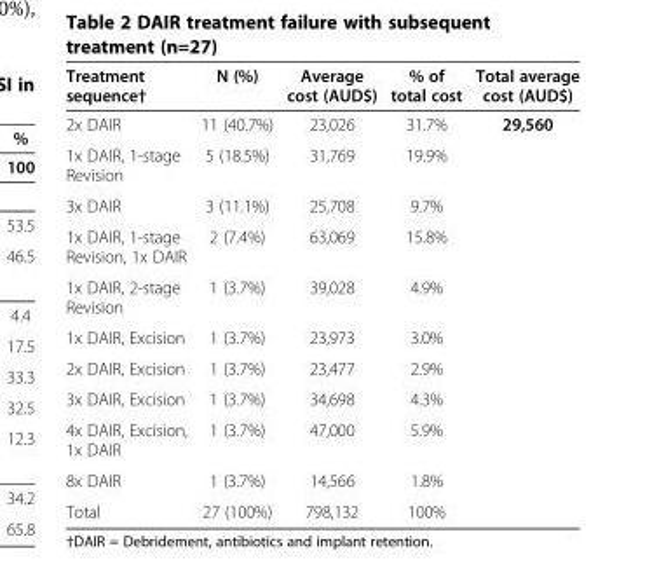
<table><thead><tr><td>Treatment sequence†</td><td>N (%)</td><td>Average cost (AUD$)</td><td>% of total cost</td><td>Total average cost (AUD$)</td></tr></thead><tbody><tr><td>2x DAIR</td><td>11 (40.7%)</td><td>23,026</td><td>31.7%</td><td rowspan="10">29,560</td></tr><tr><td>1x DAIR, 1-stage Revision</td><td>5 (18.5%)</td><td>31,769</td><td>19.9%</td></tr><tr><td>3x DAIR</td><td>3 (11.1%)</td><td>25,708</td><td>9.7%</td></tr><tr><td>1x DAIR, 1-stage Revision, 1x DAIR</td><td>2 (7.4%)</td><td>63,069</td><td>15.8%</td></tr><tr><td>1x DAIR, 2-stage Revision</td><td>1 (3.7%)</td><td>39,028</td><td>4.9%</td></tr><tr><td>1x DAIR, Excision</td><td>1 (3.7%)</td><td>23,973</td><td>3.0%</td></tr><tr><td>2x DAIR, Excision</td><td>1 (3.7%)</td><td>23,477</td><td>2.9%</td></tr><tr><td>3x DAIR, Excision</td><td>1 (3.7%)</td><td>34,698</td><td>4.3%</td></tr><tr><td>4x DAIR, Excision, 1x DAIR</td><td>1 (3.7%)</td><td>47,000</td><td>5.9%</td></tr><tr><td>8x DAIR</td><td>1 (3.7%)</td><td>14,566</td><td>1.8%</td></tr><tr><td>Total</td><td>27 (100%)</td><td>798,132</td><td>100%</td><td></td></tr></tbody></table>